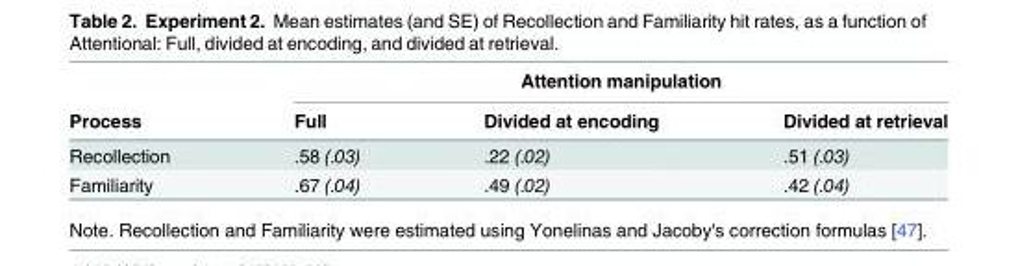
<table><thead><tr><td rowspan="2">Process</td><td colspan="3">Attention manipulation</td></tr><tr><td>Full</td><td>Divided at encoding</td><td>Divided at retrieval</td></tr></thead><tbody><tr><td>Recollection</td><td>.58 (.03)</td><td>.22 (.02)</td><td>.51 (.03)</td></tr><tr><td>Familiarity</td><td>.67 (.04)</td><td>.49 (.02)</td><td>.42 (.04)</td></tr></tbody></table>